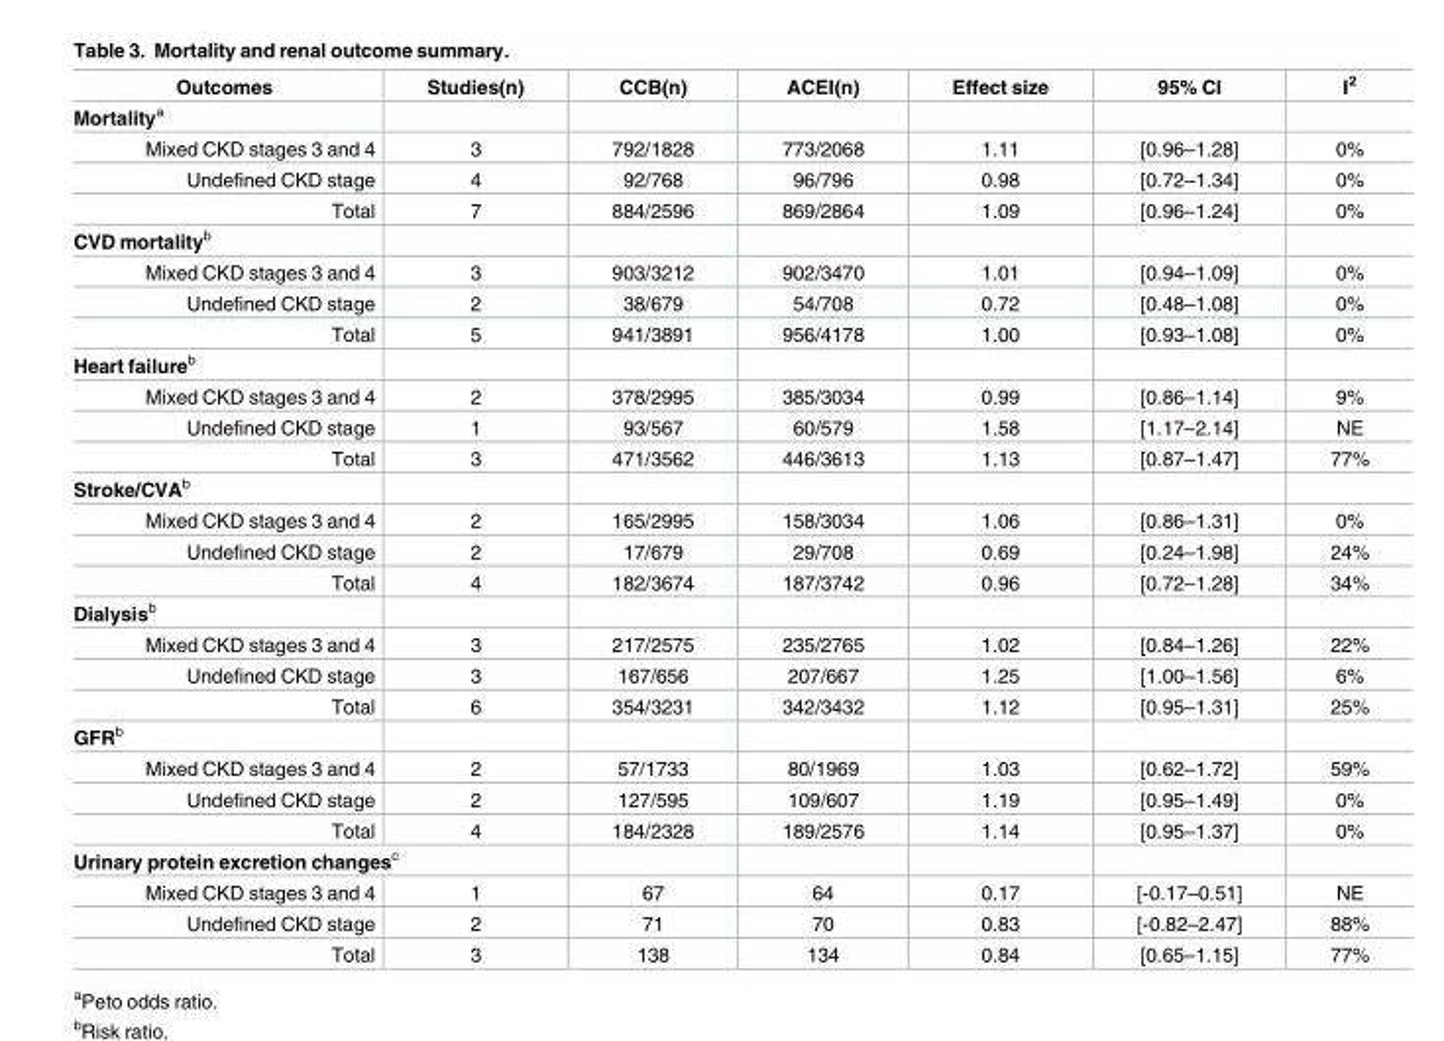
<table><thead><tr><td>Outcomes</td><td>Studies(n)</td><td>CCB(n)</td><td>ACEI(n)</td><td>Effect size</td><td>95% CI</td><td>I<sup>2</sup></td></tr></thead><tbody><tr><td colspan="7">Mortality<sup>a</sup></td></tr><tr><td>Mixed CKD stages 3 and 4</td><td>3</td><td>792/1828</td><td>773/2068</td><td>1.11</td><td>[0.96–1.28]</td><td>0%</td></tr><tr><td>Undefined CKD stage</td><td>4</td><td>92/768</td><td>96/796</td><td>0.98</td><td>[0.72–1.34]</td><td>0%</td></tr><tr><td>Total</td><td>7</td><td>884/2596</td><td>869/2864</td><td>1.09</td><td>[0.96–1.24]</td><td>0%</td></tr><tr><td colspan="7">CVD mortality<sup>b</sup></td></tr><tr><td>Mixed CKD stages 3 and 4</td><td>3</td><td>903/3212</td><td>902/3470</td><td>1.01</td><td>[0.94–1.09]</td><td>0%</td></tr><tr><td>Undefined CKD stage</td><td>2</td><td>38/679</td><td>54/708</td><td>0.72</td><td>[0.48–1.08]</td><td>0%</td></tr><tr><td>Total</td><td>5</td><td>941/3891</td><td>956/4178</td><td>1.00</td><td>[0.93–1.08]</td><td>0%</td></tr><tr><td colspan="7">Heart failure<sup>b</sup></td></tr><tr><td>Mixed CKD stages 3 and 4</td><td>2</td><td>378/2995</td><td>385/3034</td><td>0.99</td><td>[0.86–1.14]</td><td>9%</td></tr><tr><td>Undefined CKD stage</td><td>1</td><td>93/567</td><td>60/579</td><td>1.58</td><td>[1.17–2.14]</td><td>NE</td></tr><tr><td>Total</td><td>3</td><td>471/3562</td><td>446/3613</td><td>1.13</td><td>[0.87–1.47]</td><td>77%</td></tr><tr><td colspan="7">Stroke/CVA<sup>b</sup></td></tr><tr><td>Mixed CKD stages 3 and 4</td><td>2</td><td>165/2995</td><td>158/3034</td><td>1.06</td><td>[0.86–1.31]</td><td>0%</td></tr><tr><td>Undefined CKD stage</td><td>2</td><td>17/679</td><td>29/708</td><td>0.69</td><td>[0.24–1.98]</td><td>24%</td></tr><tr><td>Total</td><td>4</td><td>182/3674</td><td>187/3742</td><td>0.96</td><td>[0.72–1.28]</td><td>34%</td></tr><tr><td colspan="7">Dialysis<sup>b</sup></td></tr><tr><td>Mixed CKD stages 3 and 4</td><td>3</td><td>217/2575</td><td>235/2765</td><td>1.02</td><td>[0.84–1.26]</td><td>22%</td></tr><tr><td>Undefined CKD stage</td><td>3</td><td>167/656</td><td>207/667</td><td>1.25</td><td>[1.00–1.56]</td><td>6%</td></tr><tr><td>Total</td><td>6</td><td>354/3231</td><td>342/3432</td><td>1.12</td><td>[0.95–1.31]</td><td>25%</td></tr><tr><td colspan="7">GFR<sup>b</sup></td></tr><tr><td>Mixed CKD stages 3 and 4</td><td>2</td><td>57/1733</td><td>80/1969</td><td>1.03</td><td>[0.62–1.72]</td><td>59%</td></tr><tr><td>Undefined CKD stage</td><td>2</td><td>127/595</td><td>109/607</td><td>1.19</td><td>[0.95–1.49]</td><td>0%</td></tr><tr><td>Total</td><td>4</td><td>184/2328</td><td>189/2576</td><td>1.14</td><td>[0.95–1.37]</td><td>0%</td></tr><tr><td colspan="7">Urinary protein excretion changes<sup>c</sup></td></tr><tr><td>Mixed CKD stages 3 and 4</td><td>1</td><td>67</td><td>64</td><td>0.17</td><td>[-0.17–0.51]</td><td>NE</td></tr><tr><td>Undefined CKD stage</td><td>2</td><td>71</td><td>70</td><td>0.83</td><td>[-0.82–2.47]</td><td>88%</td></tr><tr><td>Total</td><td>3</td><td>138</td><td>134</td><td>0.84</td><td>[0.65–1.15]</td><td>77%</td></tr></tbody></table>